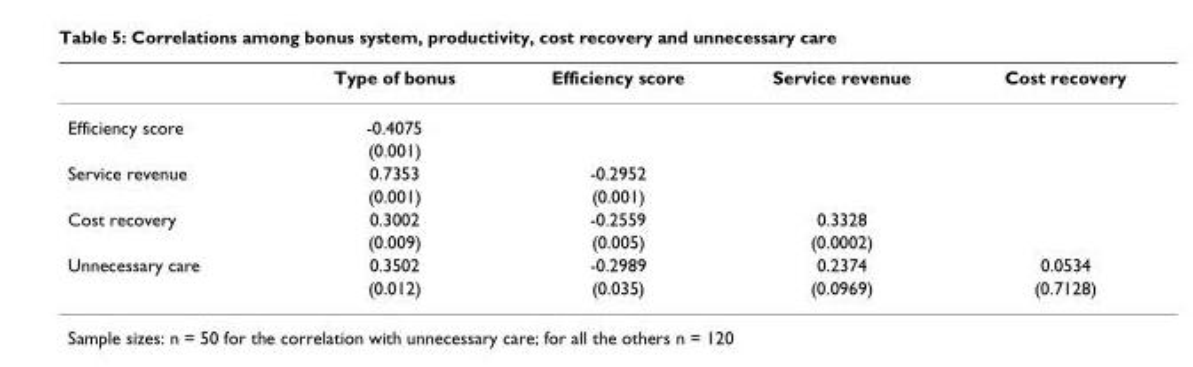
<table><thead><tr><td></td><td>Type of bonus</td><td>Efficiency score</td><td>Service revenue</td><td>Cost recovery</td></tr></thead><tbody><tr><td rowspan="2">Efficiency score</td><td>-0.4075</td><td></td><td></td><td></td></tr><tr><td>(0.001)</td><td></td><td></td><td></td></tr><tr><td rowspan="2">Service revenue</td><td>0.7353</td><td>-0.2952</td><td></td><td></td></tr><tr><td>(0.001)</td><td>(0.001)</td><td></td><td></td></tr><tr><td rowspan="2">Cost recovery</td><td>0.3002</td><td>-0.2559</td><td>0.3328</td><td></td></tr><tr><td>(0.009)</td><td>(0.005)</td><td>(0.0002)</td><td></td></tr><tr><td rowspan="2">Unnecessary care</td><td>0.3502</td><td>-0.2989</td><td>0.2374</td><td>0.0534</td></tr><tr><td>(0.012)</td><td>(0.035)</td><td>(0.0969)</td><td>(0.7128)</td></tr></tbody></table>